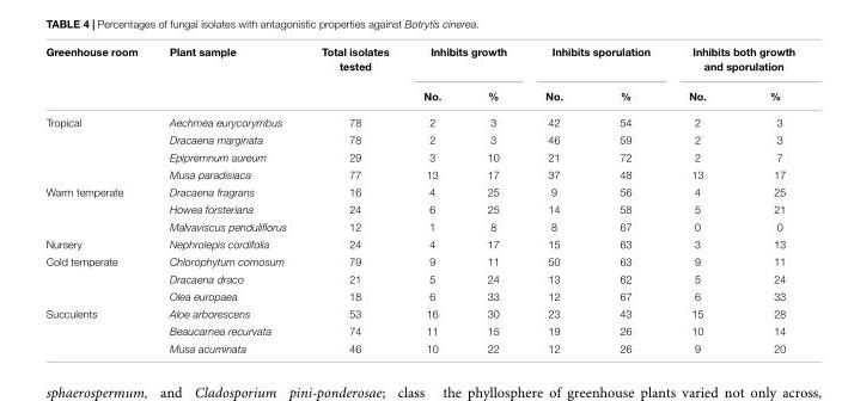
<table><thead><tr><td rowspan="2">Greenhouse room</td><td rowspan="2">Plant sample</td><td rowspan="2">Total isolates tested</td><td colspan="2">Inhibits growth</td><td colspan="2">Inhibits sporulation</td><td colspan="2">Inhibits both growth and sporulation</td></tr><tr><td>No.</td><td>%</td><td>No.</td><td>%</td><td>No.</td><td>%</td></tr></thead><tbody><tr><td rowspan="4">Tropical</td><td>Aechmea eurycorymbus</td><td>78</td><td>2</td><td>3</td><td>42</td><td>54</td><td>2</td><td>3</td></tr><tr><td>Dracaena marginata</td><td>78</td><td>2</td><td>3</td><td>46</td><td>59</td><td>2</td><td>3</td></tr><tr><td>Epipremnum aureum</td><td>29</td><td>3</td><td>10</td><td>21</td><td>72</td><td>2</td><td>7</td></tr><tr><td>Musa paradisiaca</td><td>77</td><td>13</td><td>17</td><td>37</td><td>48</td><td>13</td><td>17</td></tr><tr><td rowspan="3">Warm temperate</td><td>Dracaena fragrans</td><td>16</td><td>4</td><td>25</td><td>9</td><td>56</td><td>4</td><td>25</td></tr><tr><td>Howea forsteriana</td><td>24</td><td>6</td><td>25</td><td>14</td><td>58</td><td>5</td><td>21</td></tr><tr><td>Malvaviscus penduliflorus</td><td>12</td><td>1</td><td>8</td><td>8</td><td>67</td><td>0</td><td>0</td></tr><tr><td>Nursery</td><td>Nephrolepis cordifolia</td><td>24</td><td>4</td><td>17</td><td>15</td><td>63</td><td>3</td><td>13</td></tr><tr><td rowspan="3">Cold temperate</td><td>Chlorophytum comosum</td><td>79</td><td>9</td><td>11</td><td>50</td><td>63</td><td>9</td><td>11</td></tr><tr><td>Dracaena draco</td><td>21</td><td>5</td><td>24</td><td>13</td><td>62</td><td>5</td><td>24</td></tr><tr><td>Olea europaea</td><td>18</td><td>6</td><td>33</td><td>12</td><td>67</td><td>6</td><td>33</td></tr><tr><td rowspan="3">Succulents</td><td>Aloe arborescens</td><td>53</td><td>16</td><td>30</td><td>23</td><td>43</td><td>15</td><td>28</td></tr><tr><td>Beaucarnea recurvata</td><td>74</td><td>11</td><td>15</td><td>19</td><td>26</td><td>10</td><td>14</td></tr><tr><td>Musa acuminata</td><td>46</td><td>10</td><td>22</td><td>12</td><td>26</td><td>9</td><td>20</td></tr></tbody></table>